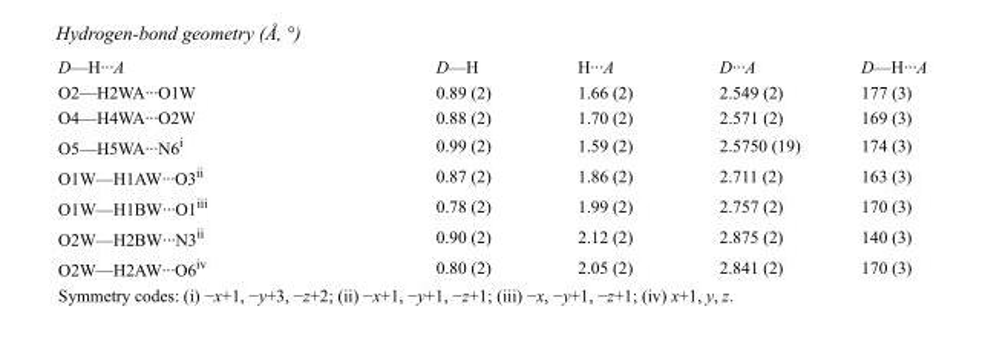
<table><tbody><tr><td>D—H···A</td><td>D—H</td><td>H···A</td><td>D···A</td><td>D—H···A</td></tr><tr><td>O2—H2WA···O1W</td><td>0.89 (2)</td><td>1.66 (2)</td><td>2.549 (2)</td><td>177 (3)</td></tr><tr><td>O4—H4WA···O2W</td><td>0.88 (2)</td><td>1.70 (2)</td><td>2.571 (2)</td><td>169 (3)</td></tr><tr><td>O5—H5WA···N6<sup>i</sup></td><td>0.99 (2)</td><td>1.59 (2)</td><td>2.5750 (19)</td><td>174 (3)</td></tr><tr><td>O1W—H1AW···O3<sup>ii</sup></td><td>0.87 (2)</td><td>1.86 (2)</td><td>2.711 (2)</td><td>163 (3)</td></tr><tr><td>O1W—H1BW···O1<sup>iii</sup></td><td>0.78 (2)</td><td>1.99 (2)</td><td>2.757 (2)</td><td>170 (3)</td></tr><tr><td>O2W—H2BW···N3<sup>ii</sup></td><td>0.90 (2)</td><td>2.12 (2)</td><td>2.875 (2)</td><td>140 (3)</td></tr><tr><td>O2W—H2AW···O6<sup>iv</sup></td><td>0.80 (2)</td><td>2.05 (2)</td><td>2.841 (2)</td><td>170 (3)</td></tr></tbody></table>